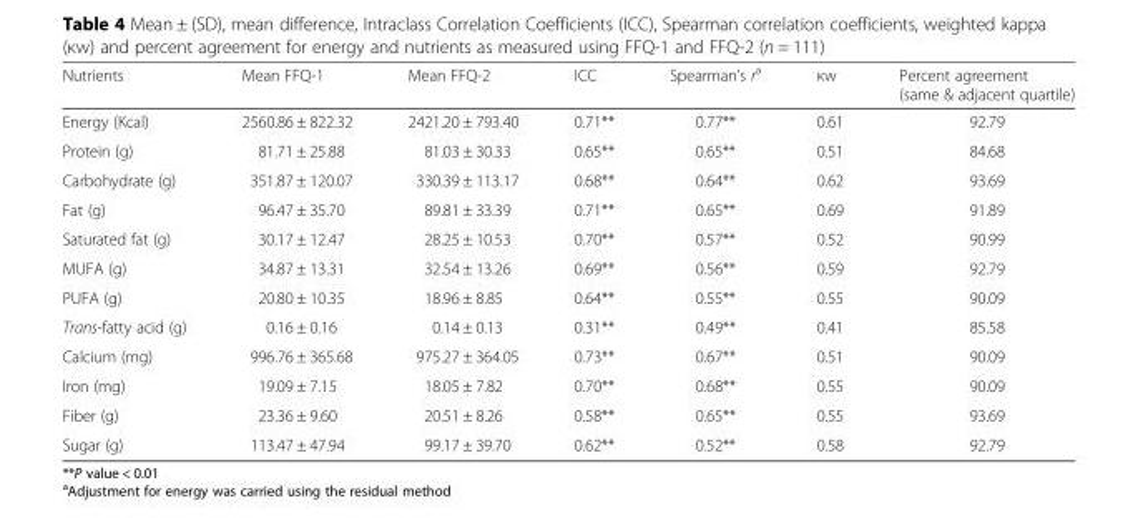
<table><thead><tr><td>Nutrients</td><td>Mean FFQ-1</td><td>Mean FFQ-2</td><td>ICC</td><td>Spearman’s r<sup>a</sup></td><td>κw</td><td>Percent agreement (same &amp; adjacent quartile)</td></tr></thead><tbody><tr><td>Energy (Kcal)</td><td>2560.86 ± 822.32</td><td>2421.20 ± 793.40</td><td>0.71**</td><td>0.77**</td><td>0.61</td><td>92.79</td></tr><tr><td>Protein (g)</td><td>81.71 ± 25.88</td><td>81.03 ± 30.33</td><td>0.65**</td><td>0.65**</td><td>0.51</td><td>84.68</td></tr><tr><td>Carbohydrate (g)</td><td>351.87 ± 120.07</td><td>330.39 ± 113.17</td><td>0.68**</td><td>0.64**</td><td>0.62</td><td>93.69</td></tr><tr><td>Fat (g)</td><td>96.47 ± 35.70</td><td>89.81 ± 33.39</td><td>0.71**</td><td>0.65**</td><td>0.69</td><td>91.89</td></tr><tr><td>Saturated fat (g)</td><td>30.17 ± 12.47</td><td>28.25 ± 10.53</td><td>0.70**</td><td>0.57**</td><td>0.52</td><td>90.99</td></tr><tr><td>MUFA (g)</td><td>34.87 ± 13.31</td><td>32.54 ± 13.26</td><td>0.69**</td><td>0.56**</td><td>0.59</td><td>92.79</td></tr><tr><td>PUFA (g)</td><td>20.80 ± 10.35</td><td>18.96 ± 8.85</td><td>0.64**</td><td>0.55**</td><td>0.55</td><td>90.09</td></tr><tr><td>Trans-fatty acid (g)</td><td>0.16 ± 0.16</td><td>0.14 ± 0.13</td><td>0.31**</td><td>0.49**</td><td>0.41</td><td>85.58</td></tr><tr><td>Calcium (mg)</td><td>996.76 ± 365.68</td><td>975.27 ± 364.05</td><td>0.73**</td><td>0.67**</td><td>0.51</td><td>90.09</td></tr><tr><td>Iron (mg)</td><td>19.09 ± 7.15</td><td>18.05 ± 7.82</td><td>0.70**</td><td>0.68**</td><td>0.55</td><td>90.09</td></tr><tr><td>Fiber (g)</td><td>23.36 ± 9.60</td><td>20.51 ± 8.26</td><td>0.58**</td><td>0.65**</td><td>0.55</td><td>93.69</td></tr><tr><td>Sugar (g)</td><td>113.47 ± 47.94</td><td>99.17 ± 39.70</td><td>0.62**</td><td>0.52**</td><td>0.58</td><td>92.79</td></tr></tbody></table>